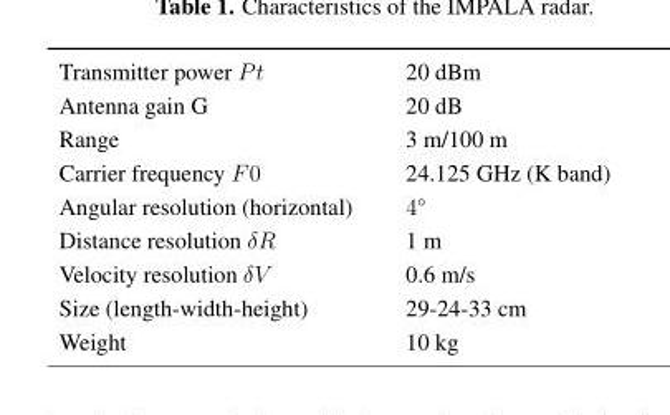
<table><tbody><tr><td>Transmitter power Pt</td><td>20 dBm</td></tr><tr><td>Antenna gain G</td><td>20 dB</td></tr><tr><td>Range</td><td>3 m/100 m</td></tr><tr><td>Carrier frequency F0</td><td>24.125 GHz (K band)</td></tr><tr><td>Angular resolution (horizontal)</td><td>4◦</td></tr><tr><td>Distance resolution δR</td><td>1 m</td></tr><tr><td>Velocity resolution δV</td><td>0.6 m/s</td></tr><tr><td>Size (length-width-height)</td><td>29-24-33 cm</td></tr><tr><td>Weight</td><td>10 kg</td></tr></tbody></table>